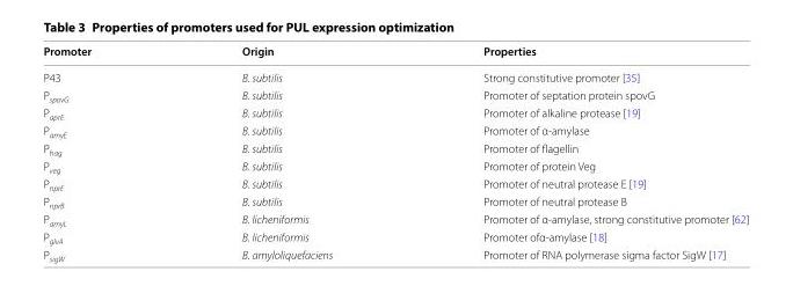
<table><thead><tr><td>Promoter</td><td>Origin</td><td>Properties</td></tr></thead><tbody><tr><td>P43</td><td>B. subtilis</td><td>Strong constitutive promoter [35]</td></tr><tr><td>P<sub>spovG</sub></td><td>B. subtilis</td><td>Promoter of septation protein spovG</td></tr><tr><td>P<sub>aprE</sub></td><td>B. subtilis</td><td>Promoter of alkaline protease [19]</td></tr><tr><td>P<sub>amyE</sub></td><td>B. subtilis</td><td>Promoter of α-amylase</td></tr><tr><td>P<sub>hag</sub></td><td>B. subtilis</td><td>Promoter of flagellin</td></tr><tr><td>P<sub>veg</sub></td><td>B. subtilis</td><td>Promoter of protein Veg</td></tr><tr><td>P<sub>nprE</sub></td><td>B. subtilis</td><td>Promoter of neutral protease E [19]</td></tr><tr><td>P<sub>nprB</sub></td><td>B. subtilis</td><td>Promoter of neutral protease B</td></tr><tr><td>P<sub>amyL</sub></td><td>B. licheniformis</td><td>Promoter of α-amylase, strong constitutive promoter [62]</td></tr><tr><td>P<sub>glvA</sub></td><td>B. licheniformis</td><td>Promoter ofα-amylase [18]</td></tr><tr><td>P<sub>sigW</sub></td><td>B. amyloliquefaciens</td><td>Promoter of RNA polymerase sigma factor SigW [17]</td></tr></tbody></table>